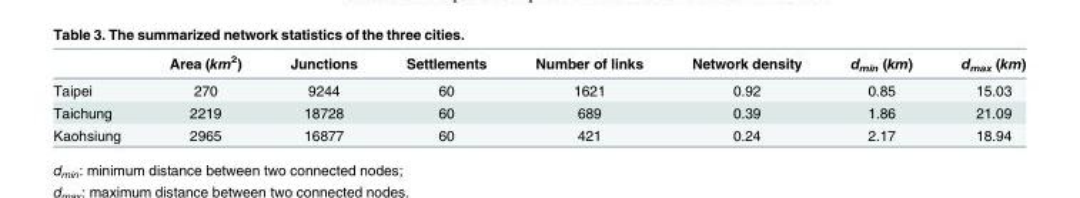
<table><thead><tr><td></td><td>Area (km<sup>2</sup>)</td><td>Junctions</td><td>Settlements</td><td>Number of links</td><td>Network density</td><td>d<sub>min</sub> (km)</td><td>d<sub>max</sub> (km)</td></tr></thead><tbody><tr><td>Taipei</td><td>270</td><td>9244</td><td>60</td><td>1621</td><td>0.92</td><td>0.85</td><td>15.03</td></tr><tr><td>Taichung</td><td>2219</td><td>18728</td><td>60</td><td>689</td><td>0.39</td><td>1.86</td><td>21.09</td></tr><tr><td>Kaohsiung</td><td>2965</td><td>16877</td><td>60</td><td>421</td><td>0.24</td><td>2.17</td><td>18.94</td></tr></tbody></table>